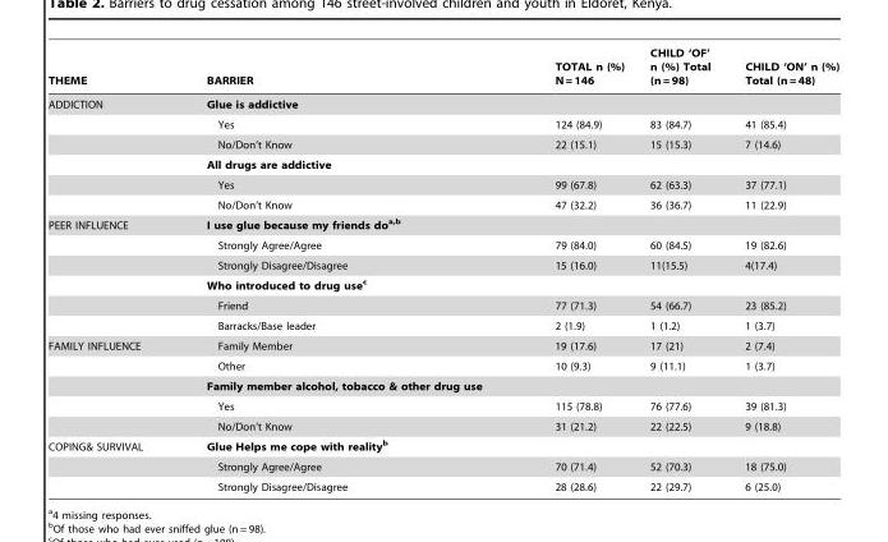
<table><thead><tr><td>THEME</td><td>BARRIER</td><td>TOTAL n (%) N = 146</td><td>CHILD ‘OF’ n (%) Total (n = 98)</td><td>CHILD ‘ON’ n (%) Total (n = 48)</td></tr></thead><tbody><tr><td rowspan="6">ADDICTION</td><td colspan="4">Glue is addictive</td></tr><tr><td>Yes</td><td>124 (84.9)</td><td>83 (84.7)</td><td>41 (85.4)</td></tr><tr><td>No/Don’t Know</td><td>22 (15.1)</td><td>15 (15.3)</td><td>7 (14.6)</td></tr><tr><td colspan="4">All drugs are addictive</td></tr><tr><td>Yes</td><td>99 (67.8)</td><td>62 (63.3)</td><td>37 (77.1)</td></tr><tr><td>No/Don’t Know</td><td>47 (32.2)</td><td>36 (36.7)</td><td>11 (22.9)</td></tr><tr><td rowspan="6">PEER INFLUENCE</td><td colspan="4">I use glue because my friends doa,b</td></tr><tr><td>Strongly Agree/Agree</td><td>79 (84.0)</td><td>60 (84.5)</td><td>19 (82.6)</td></tr><tr><td>Strongly Disagree/Disagree</td><td>15 (16.0)</td><td>11(15.5)</td><td>4(17.4)</td></tr><tr><td colspan="4">Who introduced to drug usec</td></tr><tr><td>Friend</td><td>77 (71.3)</td><td>54 (66.7)</td><td>23 (85.2)</td></tr><tr><td>Barracks/Base leader</td><td>2 (1.9)</td><td>1 (1.2)</td><td>1 (3.7)</td></tr><tr><td rowspan="5">FAMILY INFLUENCE</td><td>Family Member</td><td>19 (17.6)</td><td>17 (21)</td><td>2 (7.4)</td></tr><tr><td>Other</td><td>10 (9.3)</td><td>9 (11.1)</td><td>1 (3.7)</td></tr><tr><td colspan="4">Family member alcohol, tobacco &amp; other drug use</td></tr><tr><td>Yes</td><td>115 (78.8)</td><td>76 (77.6)</td><td>39 (81.3)</td></tr><tr><td>No/Don’t Know</td><td>31 (21.2)</td><td>22 (22.5)</td><td>9 (18.8)</td></tr><tr><td rowspan="3">COPING&amp; SURVIVAL</td><td colspan="4">Glue Helps me cope with realityb</td></tr><tr><td>Strongly Agree/Agree</td><td>70 (71.4)</td><td>52 (70.3)</td><td>18 (75.0)</td></tr><tr><td>Strongly Disagree/Disagree</td><td>28 (28.6)</td><td>22 (29.7)</td><td>6 (25.0)</td></tr></tbody></table>